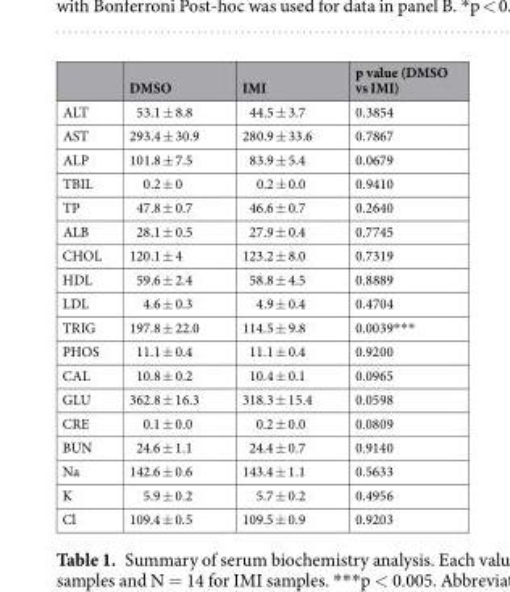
<table><thead><tr><td></td><td>DMSO</td><td>IMI</td><td>p value (DMSO vs IMI)</td></tr></thead><tbody><tr><td>ALT</td><td>53.1 ± 8.8</td><td>44.5 ± 3.7</td><td>0.3854</td></tr><tr><td>AST</td><td>293.4 ± 30.9</td><td>280.9 ± 33.6</td><td>0.7867</td></tr><tr><td>ALP</td><td>101.8 ± 7.5</td><td>83.9 ± 5.4</td><td>0.0679</td></tr><tr><td>TBIL</td><td>0.2 ± 0</td><td>0.2 ± 0.0</td><td>0.9410</td></tr><tr><td>TP</td><td>47.8 ± 0.7</td><td>46.6 ± 0.7</td><td>0.2640</td></tr><tr><td>ALB</td><td>28.1 ± 0.5</td><td>27.9 ± 0.4</td><td>0.7745</td></tr><tr><td>CHOL</td><td>120.1 ± 4</td><td>123.2 ± 8.0</td><td>0.7319</td></tr><tr><td>HDL</td><td>59.6 ± 2.4</td><td>58.8 ± 4.5</td><td>0.8889</td></tr><tr><td>LDL</td><td>4.6 ± 0.3</td><td>4.9 ± 0.4</td><td>0.4704</td></tr><tr><td>TRIG</td><td>197.8 ± 22.0</td><td>114.5 ± 9.8</td><td>0.0039***</td></tr><tr><td>PHOS</td><td>11.1 ± 0.4</td><td>11.1 ± 0.4</td><td>0.9200</td></tr><tr><td>CAL</td><td>10.8 ± 0.2</td><td>10.4 ± 0.1</td><td>0.0965</td></tr><tr><td>GLU</td><td>362.8 ± 16.3</td><td>318.3 ± 15.4</td><td>0.0598</td></tr><tr><td>CRE</td><td>0.1 ± 0.0</td><td>0.2 ± 0.0</td><td>0.0809</td></tr><tr><td>BUN</td><td>24.6 ± 1.1</td><td>24.4 ± 0.7</td><td>0.9140</td></tr><tr><td>Na</td><td>142.6 ± 0.6</td><td>143.4 ± 1.1</td><td>0.5633</td></tr><tr><td>K</td><td>5.9 ± 0.2</td><td>5.7 ± 0.2</td><td>0.4956</td></tr><tr><td>Cl</td><td>109.4 ± 0.5</td><td>109.5 ± 0.9</td><td>0.9203</td></tr></tbody></table>